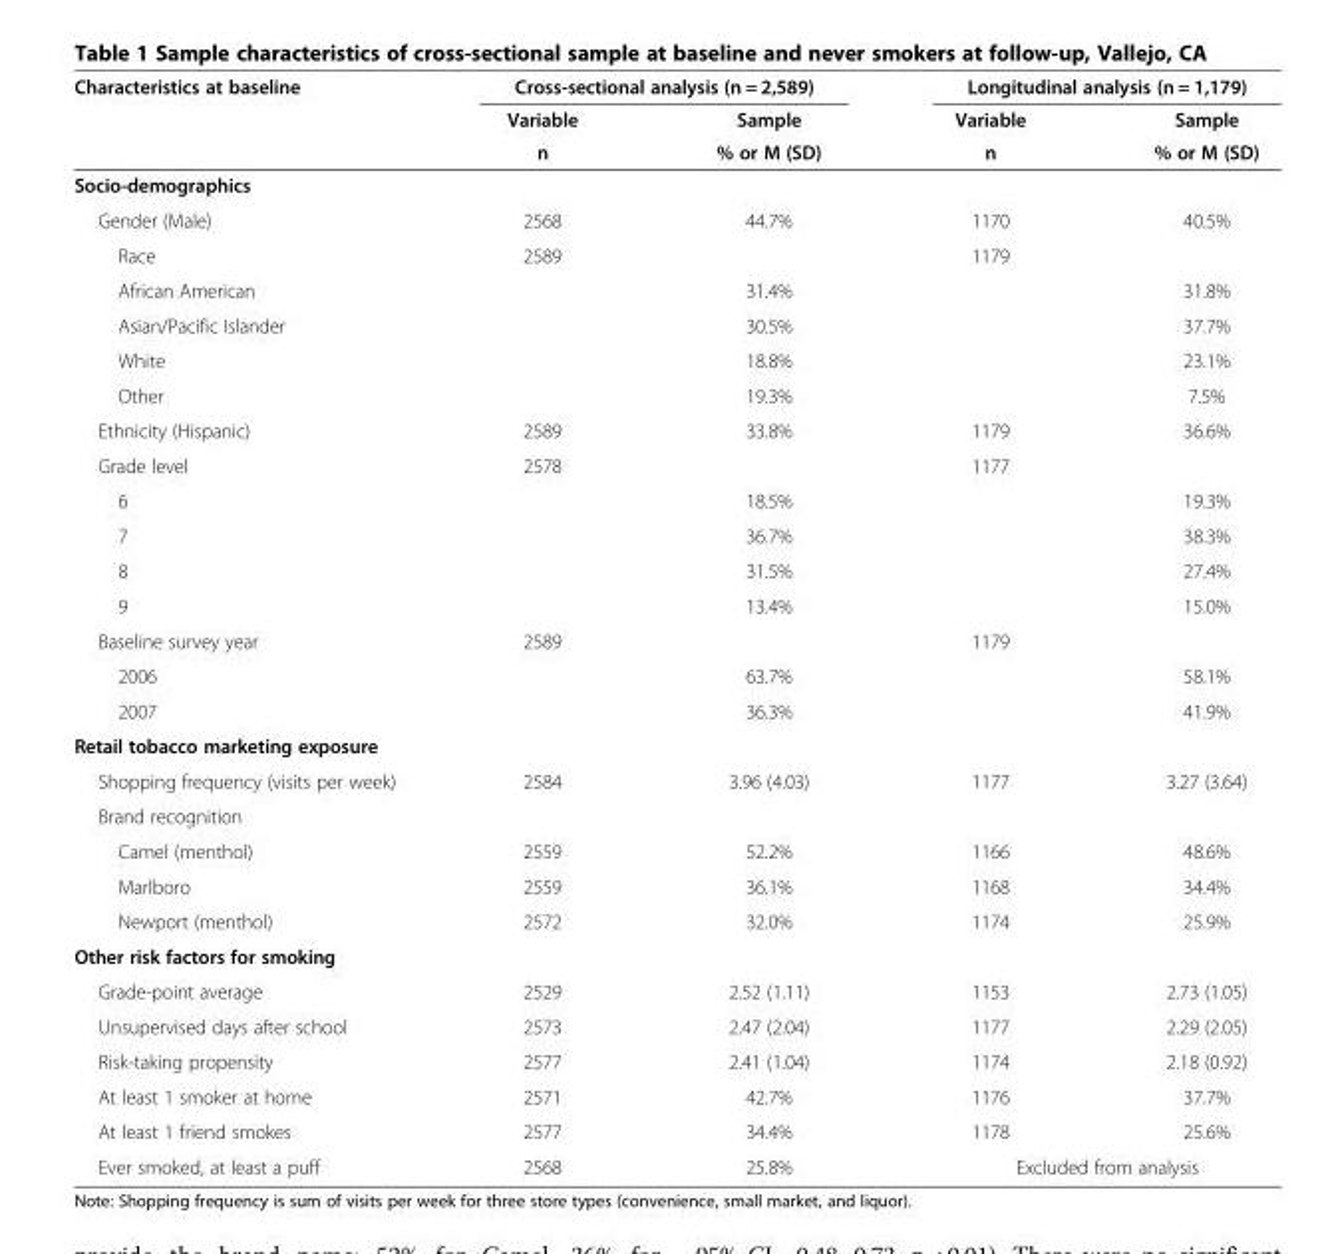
<table><thead><tr><td rowspan="3">Characteristics at baseline</td><td colspan="2">Cross-sectional analysis (n = 2,589)</td><td colspan="2">Longitudinal analysis (n = 1,179)</td></tr><tr><td rowspan="2">Variable n</td><td rowspan="2">Sample % or M (SD)</td><td rowspan="2">Variable n</td><td rowspan="2">Sample % or M (SD)</td></tr><tr></tr></thead><tbody><tr><td colspan="5">Socio-demographics</td></tr><tr><td>Gender (Male)</td><td>2568</td><td>44.7%</td><td>1170</td><td>40.5%</td></tr><tr><td>Race</td><td>2589</td><td></td><td>1179</td><td></td></tr><tr><td>African American</td><td></td><td>31.4%</td><td></td><td>31.8%</td></tr><tr><td>Asian/Pacific Islander</td><td></td><td>30.5%</td><td></td><td>37.7%</td></tr><tr><td>White</td><td></td><td>18.8%</td><td></td><td>23.1%</td></tr><tr><td>Other</td><td></td><td>19.3%</td><td></td><td>7.5%</td></tr><tr><td>Ethnicity (Hispanic)</td><td>2589</td><td>33.8%</td><td>1179</td><td>36.6%</td></tr><tr><td>Grade level</td><td>2578</td><td></td><td>1177</td><td></td></tr><tr><td>6</td><td></td><td>18.5%</td><td></td><td>19.3%</td></tr><tr><td>7</td><td></td><td>36.7%</td><td></td><td>38.3%</td></tr><tr><td>8</td><td></td><td>31.5%</td><td></td><td>27.4%</td></tr><tr><td>9</td><td></td><td>13.4%</td><td></td><td>15.0%</td></tr><tr><td>Baseline survey year</td><td>2589</td><td></td><td>1179</td><td></td></tr><tr><td>2006</td><td></td><td>63.7%</td><td></td><td>58.1%</td></tr><tr><td>2007</td><td></td><td>36.3%</td><td></td><td>41.9%</td></tr><tr><td colspan="5">Retail tobacco marketing exposure</td></tr><tr><td>Shopping frequency (visits per week)</td><td>2584</td><td>3.96 (4.03)</td><td>1177</td><td>3.27 (3.64)</td></tr><tr><td colspan="5">Brand recognition</td></tr><tr><td>Camel (menthol)</td><td>2559</td><td>52.2%</td><td>1166</td><td>48.6%</td></tr><tr><td>Marlboro</td><td>2559</td><td>36.1%</td><td>1168</td><td>34.4%</td></tr><tr><td>Newport (menthol)</td><td>2572</td><td>32.0%</td><td>1174</td><td>25.9%</td></tr><tr><td colspan="5">Other risk factors for smoking</td></tr><tr><td>Grade-point average</td><td>2529</td><td>2.52 (1.11)</td><td>1153</td><td>2.73 (1.05)</td></tr><tr><td>Unsupervised days after school</td><td>2573</td><td>2.47 (2.04)</td><td>1177</td><td>2.29 (2.05)</td></tr><tr><td>Risk-taking propensity</td><td>2577</td><td>2.41 (1.04)</td><td>1174</td><td>2.18 (0.92)</td></tr><tr><td>At least 1 smoker at home</td><td>2571</td><td>42.7%</td><td>1176</td><td>37.7%</td></tr><tr><td>At least 1 friend smokes</td><td>2577</td><td>34.4%</td><td>1178</td><td>25.6%</td></tr><tr><td>Ever smoked, at least a puff</td><td>2568</td><td>25.8%</td><td colspan="2">Excluded from analysis</td></tr></tbody></table>